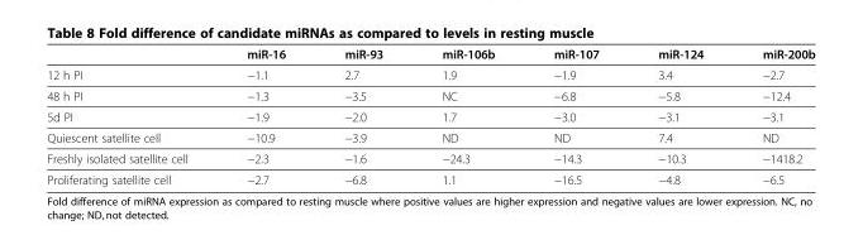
<table><thead><tr><td></td><td>miR-16</td><td>miR-93</td><td>miR-106b</td><td>miR-107</td><td>miR-124</td><td>miR-200b</td></tr></thead><tbody><tr><td>12 h PI</td><td>−1.1</td><td>2.7</td><td>1.9</td><td>−1.9</td><td>3.4</td><td>−2.7</td></tr><tr><td>48 h PI</td><td>−1.3</td><td>−3.5</td><td>NC</td><td>−6.8</td><td>−5.8</td><td>−12.4</td></tr><tr><td>5d PI</td><td>−1.9</td><td>−2.0</td><td>1.7</td><td>−3.0</td><td>−3.1</td><td>−3.1</td></tr><tr><td>Quiescent satellite cell</td><td>−10.9</td><td>−3.9</td><td>ND</td><td>ND</td><td>7.4</td><td>ND</td></tr><tr><td>Freshly isolated satellite cell</td><td>−2.3</td><td>−1.6</td><td>−24.3</td><td>−14.3</td><td>−10.3</td><td>−1418.2</td></tr><tr><td>Proliferating satellite cell</td><td>−2.7</td><td>−6.8</td><td>1.1</td><td>−16.5</td><td>−4.8</td><td>−6.5</td></tr></tbody></table>